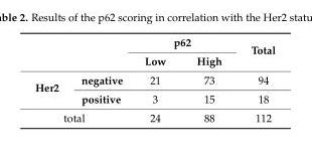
<table><thead><tr><td rowspan="2"></td><td rowspan="2"></td><td colspan="2">p62</td><td rowspan="2">Total</td></tr><tr><td>Low</td><td>High</td></tr></thead><tbody><tr><td rowspan="2">Her2</td><td>negative</td><td>21</td><td>73</td><td>94</td></tr><tr><td>positive</td><td>3</td><td>15</td><td>18</td></tr><tr><td colspan="2">total</td><td>24</td><td>88</td><td>112</td></tr></tbody></table>